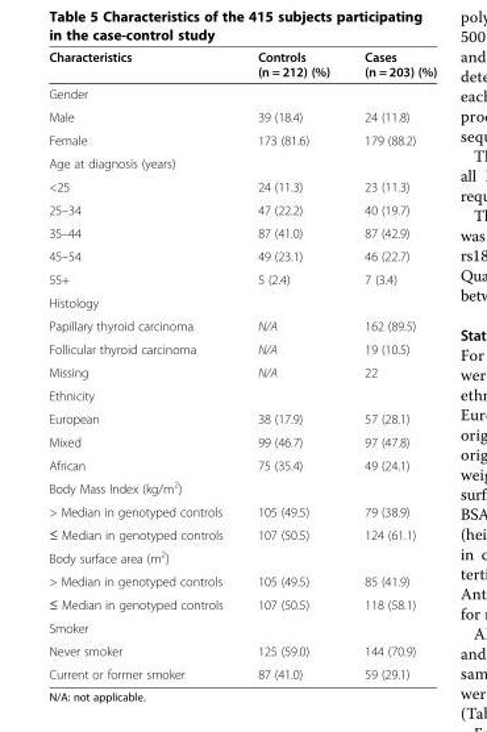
<table><thead><tr><td>Characteristics</td><td>Controls (n = 212) (%)</td><td>Cases (n = 203) (%)</td></tr></thead><tbody><tr><td colspan="3">Gender</td></tr><tr><td>Male</td><td>39 (18.4)</td><td>24 (11.8)</td></tr><tr><td>Female</td><td>173 (81.6)</td><td>179 (88.2)</td></tr><tr><td colspan="3">Age at diagnosis (years)</td></tr><tr><td>&lt;25</td><td>24 (11.3)</td><td>23 (11.3)</td></tr><tr><td>25–34</td><td>47 (22.2)</td><td>40 (19.7)</td></tr><tr><td>35–44</td><td>87 (41.0)</td><td>87 (42.9)</td></tr><tr><td>45–54</td><td>49 (23.1)</td><td>46 (22.7)</td></tr><tr><td>55+</td><td>5 (2.4)</td><td>7 (3.4)</td></tr><tr><td colspan="3">Histology</td></tr><tr><td>Papillary thyroid carcinoma</td><td>N/A</td><td>162 (89.5)</td></tr><tr><td>Follicular thyroid carcinoma</td><td>N/A</td><td>19 (10.5)</td></tr><tr><td>Missing</td><td>N/A</td><td>22</td></tr><tr><td colspan="3">Ethnicity</td></tr><tr><td>European</td><td>38 (17.9)</td><td>57 (28.1)</td></tr><tr><td>Mixed</td><td>99 (46.7)</td><td>97 (47.8)</td></tr><tr><td>African</td><td>75 (35.4)</td><td>49 (24.1)</td></tr><tr><td colspan="3">Body Mass Index (kg/m<sup>2</sup>)</td></tr><tr><td>&gt; Median in genotyped controls</td><td>105 (49.5)</td><td>79 (38.9)</td></tr><tr><td>≤ Median in genotyped controls</td><td>107 (50.5)</td><td>124 (61.1)</td></tr><tr><td colspan="3">Body surface area (m<sup>2</sup>)</td></tr><tr><td>&gt; Median in genotyped controls</td><td>105 (49.5)</td><td>85 (41.9)</td></tr><tr><td>≤ Median in genotyped controls</td><td>107 (50.5)</td><td>118 (58.1)</td></tr><tr><td colspan="3">Smoker</td></tr><tr><td>Never smoker</td><td>125 (59.0)</td><td>144 (70.9)</td></tr><tr><td>Current or former smoker</td><td>87 (41.0)</td><td>59 (29.1)</td></tr></tbody></table>